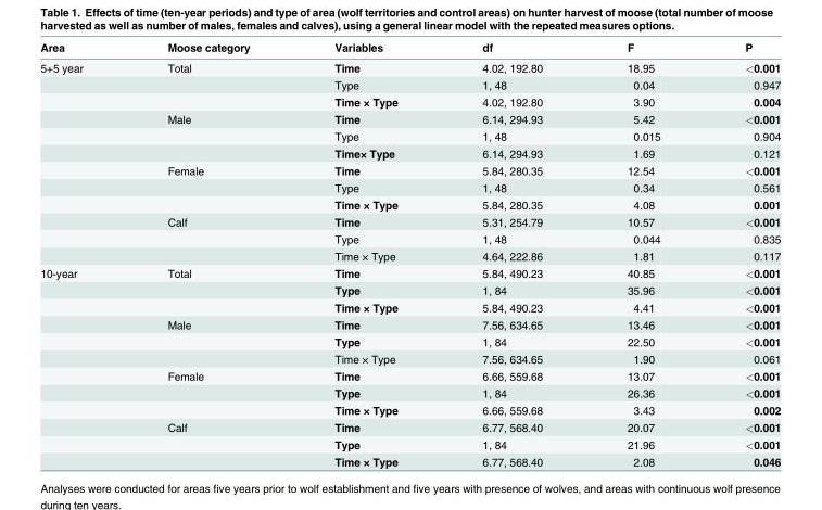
<table><thead><tr><td>Area</td><td>Moose category</td><td>Variables</td><td>df</td><td>F</td><td>P</td></tr></thead><tbody><tr><td rowspan="12">5+5 year</td><td>Total</td><td>Time</td><td>4.02, 192.80</td><td>18.95</td><td>&lt;0.001</td></tr><tr><td></td><td>Type</td><td>1, 48</td><td>0.04</td><td>0.947</td></tr><tr><td></td><td>Time × Type</td><td>4.02, 192.80</td><td>3.90</td><td>0.004</td></tr><tr><td>Male</td><td>Time</td><td>6.14, 294.93</td><td>5.42</td><td>&lt;0.001</td></tr><tr><td></td><td>Type</td><td>1, 48</td><td>0.015</td><td>0.904</td></tr><tr><td></td><td>Time× Type</td><td>6.14, 294.93</td><td>1.69</td><td>0.121</td></tr><tr><td>Female</td><td>Time</td><td>5.84, 280.35</td><td>12.54</td><td>&lt;0.001</td></tr><tr><td></td><td>Type</td><td>1, 48</td><td>0.34</td><td>0.561</td></tr><tr><td></td><td>Time × Type</td><td>5.84, 280.35</td><td>4.08</td><td>0.001</td></tr><tr><td>Calf</td><td>Time</td><td>5.31, 254.79</td><td>10.57</td><td>&lt;0.001</td></tr><tr><td></td><td>Type</td><td>1, 48</td><td>0.044</td><td>0.835</td></tr><tr><td></td><td>Time × Type</td><td>4.64, 222.86</td><td>1.81</td><td>0.117</td></tr><tr><td rowspan="12">10-year</td><td>Total</td><td>Time</td><td>5.84, 490.23</td><td>40.85</td><td>&lt;0.001</td></tr><tr><td></td><td>Type</td><td>1, 84</td><td>35.96</td><td>&lt;0.001</td></tr><tr><td></td><td>Time × Type</td><td>5.84, 490.23</td><td>4.41</td><td>&lt;0.001</td></tr><tr><td>Male</td><td>Time</td><td>7.56, 634.65</td><td>13.46</td><td>&lt;0.001</td></tr><tr><td></td><td>Type</td><td>1, 84</td><td>22.50</td><td>&lt;0.001</td></tr><tr><td></td><td>Time × Type</td><td>7.56, 634.65</td><td>1.90</td><td>0.061</td></tr><tr><td>Female</td><td>Time</td><td>6.66, 559.68</td><td>13.07</td><td>&lt;0.001</td></tr><tr><td></td><td>Type</td><td>1, 84</td><td>26.36</td><td>&lt;0.001</td></tr><tr><td></td><td>Time × Type</td><td>6.66, 559.68</td><td>3.43</td><td>0.002</td></tr><tr><td>Calf</td><td>Time</td><td>6.77, 568.40</td><td>20.07</td><td>&lt;0.001</td></tr><tr><td></td><td>Type</td><td>1, 84</td><td>21.96</td><td>&lt;0.001</td></tr><tr><td></td><td>Time × Type</td><td>6.77, 568.40</td><td>2.08</td><td>0.046</td></tr></tbody></table>